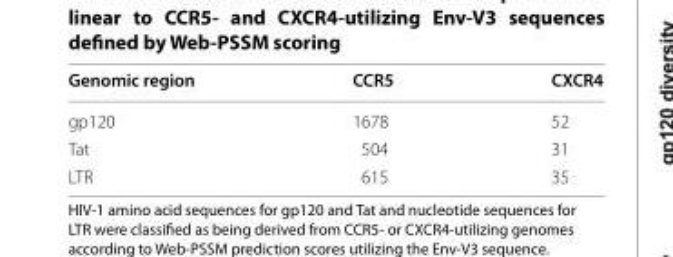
<table><thead><tr><td>Genomic region</td><td>CCR5</td><td>CXCR4</td></tr></thead><tbody><tr><td>gp120</td><td>1678</td><td>52</td></tr><tr><td>Tat</td><td>504</td><td>31</td></tr><tr><td>LTR</td><td>615</td><td>35</td></tr></tbody></table>